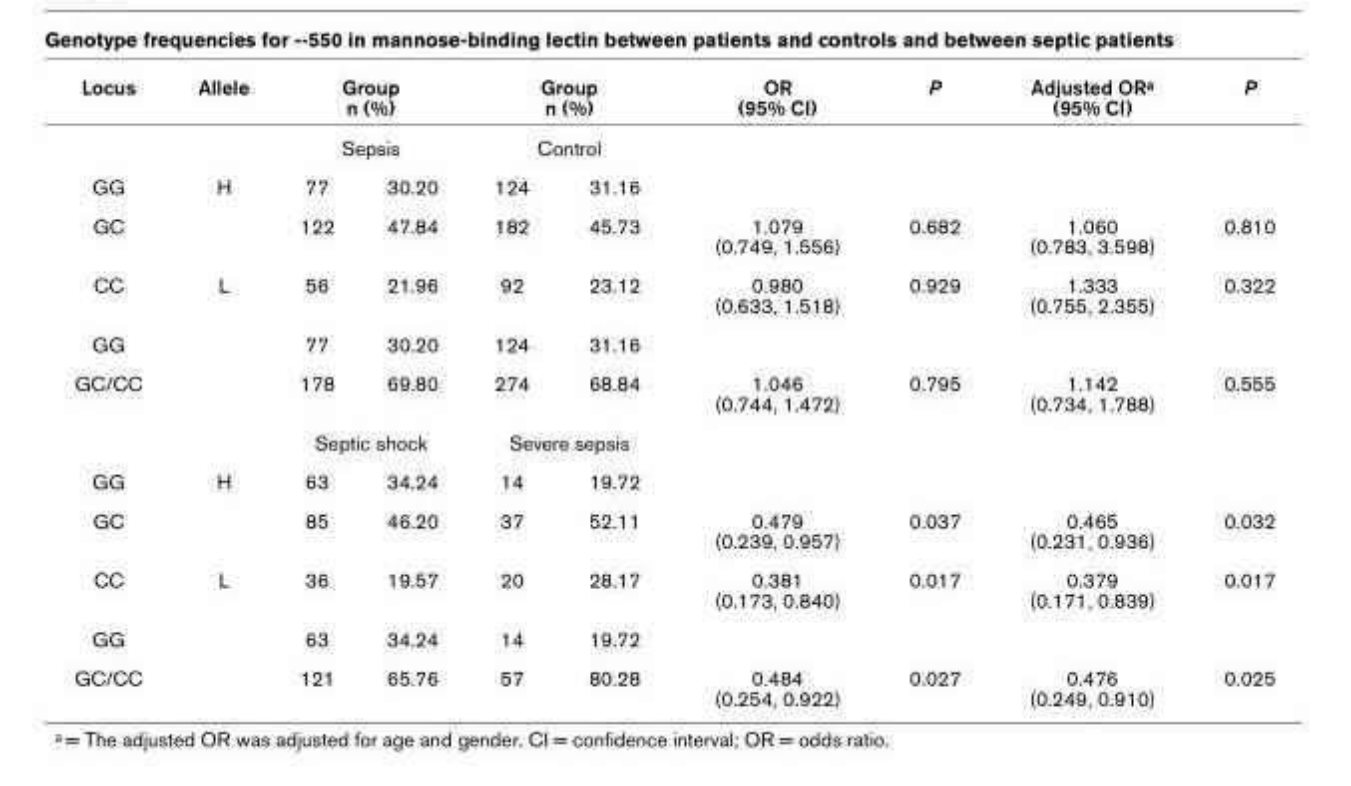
<table><thead><tr><td rowspan="3">Locus GG</td><td rowspan="3">Allele H</td><td rowspan="2" colspan="2">Group n (%) Sepsis</td><td rowspan="2" colspan="2">Group n (%) Control</td><td rowspan="3">OR (95% CI)</td><td rowspan="3">P</td><td rowspan="3">Adjusted OR<sup>a</sup> (95% CI)</td><td rowspan="3">P</td></tr><tr></tr><tr><td>77</td><td>30.20</td><td>124</td><td>31.16</td></tr></thead><tbody><tr><td>GC</td><td></td><td>122</td><td>47.84</td><td>182</td><td>45.73</td><td>1.079 (0.749, 1.556)</td><td>0.682</td><td>1.060 (0.783, 3.598)</td><td>0.810</td></tr><tr><td>CC</td><td>L</td><td>56</td><td>21.96</td><td>92</td><td>23.12</td><td>0.980 (0.633, 1.518)</td><td>0.929</td><td>1.333 (0.755, 2.355)</td><td>0.322</td></tr><tr><td>GG</td><td></td><td>77</td><td>30.20</td><td>124</td><td>31.16</td><td></td><td></td><td></td><td></td></tr><tr><td rowspan="2">GC/CC</td><td></td><td>178</td><td>69.80</td><td>274</td><td>68.84</td><td>1.046 (0.744, 1.472)</td><td>0.795</td><td>1.142 (0.734, 1.788)</td><td>0.555</td></tr><tr><td></td><td colspan="2">Septic shock</td><td colspan="2">Severe sepsis</td><td></td><td></td><td></td><td></td></tr><tr><td>GG</td><td>H</td><td>63</td><td>34.24</td><td>14</td><td>19.72</td><td></td><td></td><td></td><td></td></tr><tr><td>GC</td><td></td><td>85</td><td>46.20</td><td>37</td><td>52.11</td><td>0.479 (0.239, 0.957)</td><td>0.037</td><td>0.465 (0.231, 0.936)</td><td>0.032</td></tr><tr><td>CC</td><td>L</td><td>36</td><td>19.57</td><td>20</td><td>28.17</td><td>0.381 (0.173, 0.840)</td><td>0.017</td><td>0.379 (0.171, 0.839)</td><td>0.017</td></tr><tr><td>GG</td><td></td><td>63</td><td>34.24</td><td>14</td><td>19.72</td><td></td><td></td><td></td><td></td></tr><tr><td>GC/CC</td><td></td><td>121</td><td>65.76</td><td>57</td><td>80.28</td><td>0.484 (0.254, 0.922)</td><td>0.027</td><td>0.476 (0.249, 0.910)</td><td>0.025</td></tr></tbody></table>